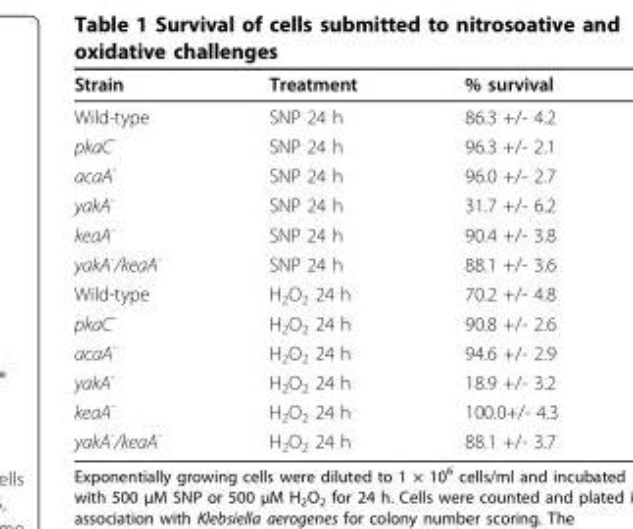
<table><thead><tr><td>Strain</td><td>Treatment</td><td>% survival</td></tr></thead><tbody><tr><td>Wild-type</td><td>SNP 24 h</td><td>86.3 +/- 4.2</td></tr><tr><td>pkaC<sup>-</sup></td><td>SNP 24 h</td><td>96.3 +/- 2.1</td></tr><tr><td>acaA<sup>-</sup></td><td>SNP 24 h</td><td>96.0 +/- 2.7</td></tr><tr><td>yakA<sup>-</sup></td><td>SNP 24 h</td><td>31.7 +/- 6.2</td></tr><tr><td>keaA<sup>-</sup></td><td>SNP 24 h</td><td>90.4 +/- 3.8</td></tr><tr><td>yakA<sup>-</sup>/keaA<sup>-</sup></td><td>SNP 24 h</td><td>88.1 +/- 3.6</td></tr><tr><td>Wild-type</td><td>H<sub>2</sub>O<sub>2</sub> 24 h</td><td>70.2 +/- 4.8</td></tr><tr><td>pkaC<sup>-</sup></td><td>H<sub>2</sub>O<sub>2</sub> 24 h</td><td>90.8 +/- 2.6</td></tr><tr><td>acaA<sup>-</sup></td><td>H<sub>2</sub>O<sub>2</sub> 24 h</td><td>94.6 +/- 2.9</td></tr><tr><td>yakA<sup>-</sup></td><td>H<sub>2</sub>O<sub>2</sub> 24 h</td><td>18.9 +/- 3.2</td></tr><tr><td>keaA<sup>-</sup></td><td>H<sub>2</sub>O<sub>2</sub> 24 h</td><td>100.0+/- 4.3</td></tr><tr><td>yakA<sup>-</sup>/keaA<sup>-</sup></td><td>H<sub>2</sub>O<sub>2</sub> 24 h</td><td>88.1 +/- 3.7</td></tr></tbody></table>